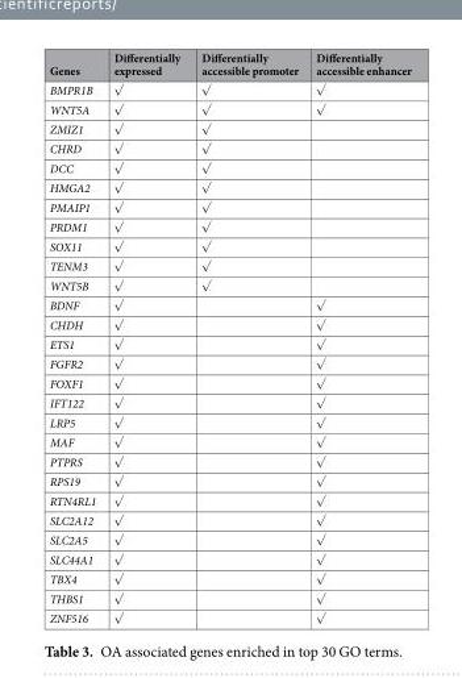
<table><thead><tr><td>Genes</td><td>Differentially expressed</td><td>Differentially accessible promoter</td><td>Differentially accessible enhancer</td></tr></thead><tbody><tr><td>BMPR1B</td><td>√</td><td>√</td><td>√</td></tr><tr><td>WNT5A</td><td>√</td><td>√</td><td>√</td></tr><tr><td>ZMIZ1</td><td>√</td><td>√</td><td></td></tr><tr><td>CHRD</td><td>√</td><td>√</td><td></td></tr><tr><td>DCC</td><td>√</td><td>√</td><td></td></tr><tr><td>HMGA2</td><td>√</td><td>√</td><td></td></tr><tr><td>PMAIP1</td><td>√</td><td>√</td><td></td></tr><tr><td>PRDM1</td><td>√</td><td>√</td><td></td></tr><tr><td>SOX11</td><td>√</td><td>√</td><td></td></tr><tr><td>TENM3</td><td>√</td><td>√</td><td></td></tr><tr><td>WNT5B</td><td>√</td><td>√</td><td></td></tr><tr><td>BDNF</td><td>√</td><td></td><td>√</td></tr><tr><td>CHDH</td><td>√</td><td></td><td>√</td></tr><tr><td>ETS1</td><td>√</td><td></td><td>√</td></tr><tr><td>FGFR2</td><td>√</td><td></td><td>√</td></tr><tr><td>FOXF1</td><td>√</td><td></td><td>√</td></tr><tr><td>IFT122</td><td>√</td><td></td><td>√</td></tr><tr><td>LRP5</td><td>√</td><td></td><td>√</td></tr><tr><td>MAF</td><td>√</td><td></td><td>√</td></tr><tr><td>PTPRS</td><td>√</td><td></td><td>√</td></tr><tr><td>RPS19</td><td>√</td><td></td><td>√</td></tr><tr><td>RTN4RL1</td><td>√</td><td></td><td>√</td></tr><tr><td>SLC2A12</td><td>√</td><td></td><td>√</td></tr><tr><td>SLC2A5</td><td>√</td><td></td><td>√</td></tr><tr><td>SLC44A1</td><td>√</td><td></td><td>√</td></tr><tr><td>TBX4</td><td>√</td><td></td><td>√</td></tr><tr><td>THBS1</td><td>√</td><td></td><td>√</td></tr><tr><td>ZNF516</td><td>√</td><td></td><td>√</td></tr></tbody></table>